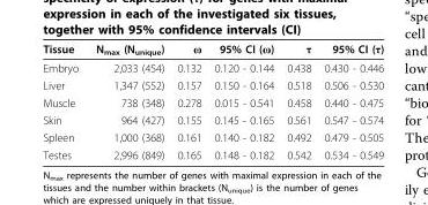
<table><thead><tr><td>Tissue</td><td>N<sub>max</sub> (N<sub>unique</sub>)</td><td>ω</td><td>95% CI (ω)</td><td>τ</td><td>95% CI (τ)</td></tr></thead><tbody><tr><td>Embryo</td><td>2,033 (454)</td><td>0.132</td><td>0.120 - 0.144</td><td>0.438</td><td>0.430 - 0.446</td></tr><tr><td>Liver</td><td>1,347 (552)</td><td>0.157</td><td>0.150 - 0.164</td><td>0.518</td><td>0.506 - 0.530</td></tr><tr><td>Muscle</td><td>738 (348)</td><td>0.278</td><td>0.015 - 0.541</td><td>0.458</td><td>0.440 - 0.475</td></tr><tr><td>Skin</td><td>964 (427)</td><td>0.155</td><td>0.145 - 0.165</td><td>0.561</td><td>0.547 - 0.574</td></tr><tr><td>Spleen</td><td>1,000 (368)</td><td>0.161</td><td>0.140 - 0.182</td><td>0.492</td><td>0.479 - 0.505</td></tr><tr><td>Testes</td><td>2,996 (849)</td><td>0.165</td><td>0.148 - 0.182</td><td>0.542</td><td>0.534 - 0.549</td></tr></tbody></table>